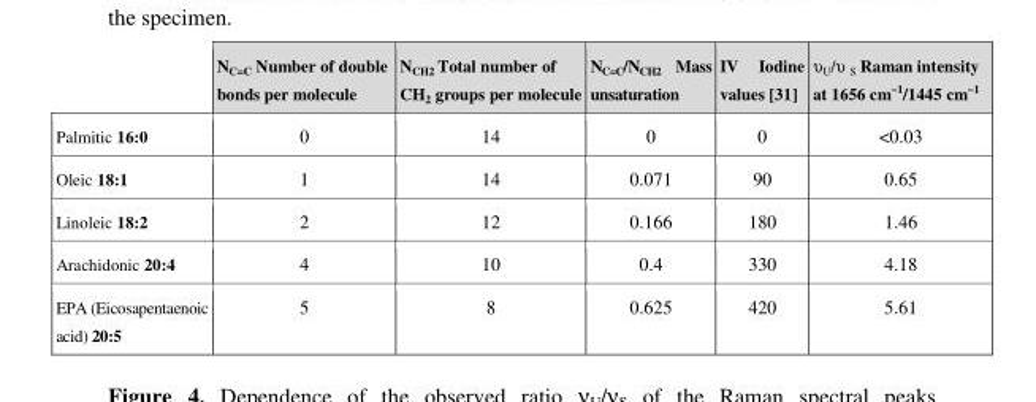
<table><thead><tr><td></td><td>NC=C Number of double bonds per molecule</td><td>N<sub>CH2</sub> Total number of CH<sub>2</sub> groups per molecule</td><td>NC=C/NCH2 Mass unsaturation</td><td>IV Iodine values [31]</td><td>υ<sub>U</sub>/υ <sub>S</sub> Raman intensity at 1656 cm<sup>−1</sup>/1445 cm<sup>−1</sup></td></tr></thead><tbody><tr><td>Palmitic 16:0</td><td>0</td><td>14</td><td>0</td><td>0</td><td>&lt;0.03</td></tr><tr><td>Oleic 18:1</td><td>1</td><td>14</td><td>0.071</td><td>90</td><td>0.65</td></tr><tr><td>Linoleic 18:2</td><td>2</td><td>12</td><td>0.166</td><td>180</td><td>1.46</td></tr><tr><td>Arachidonic 20:4</td><td>4</td><td>10</td><td>0.4</td><td>330</td><td>4.18</td></tr><tr><td>EPA (Eicosapentaenoic acid) 20:5</td><td>5</td><td>8</td><td>0.625</td><td>420</td><td>5.61</td></tr></tbody></table>